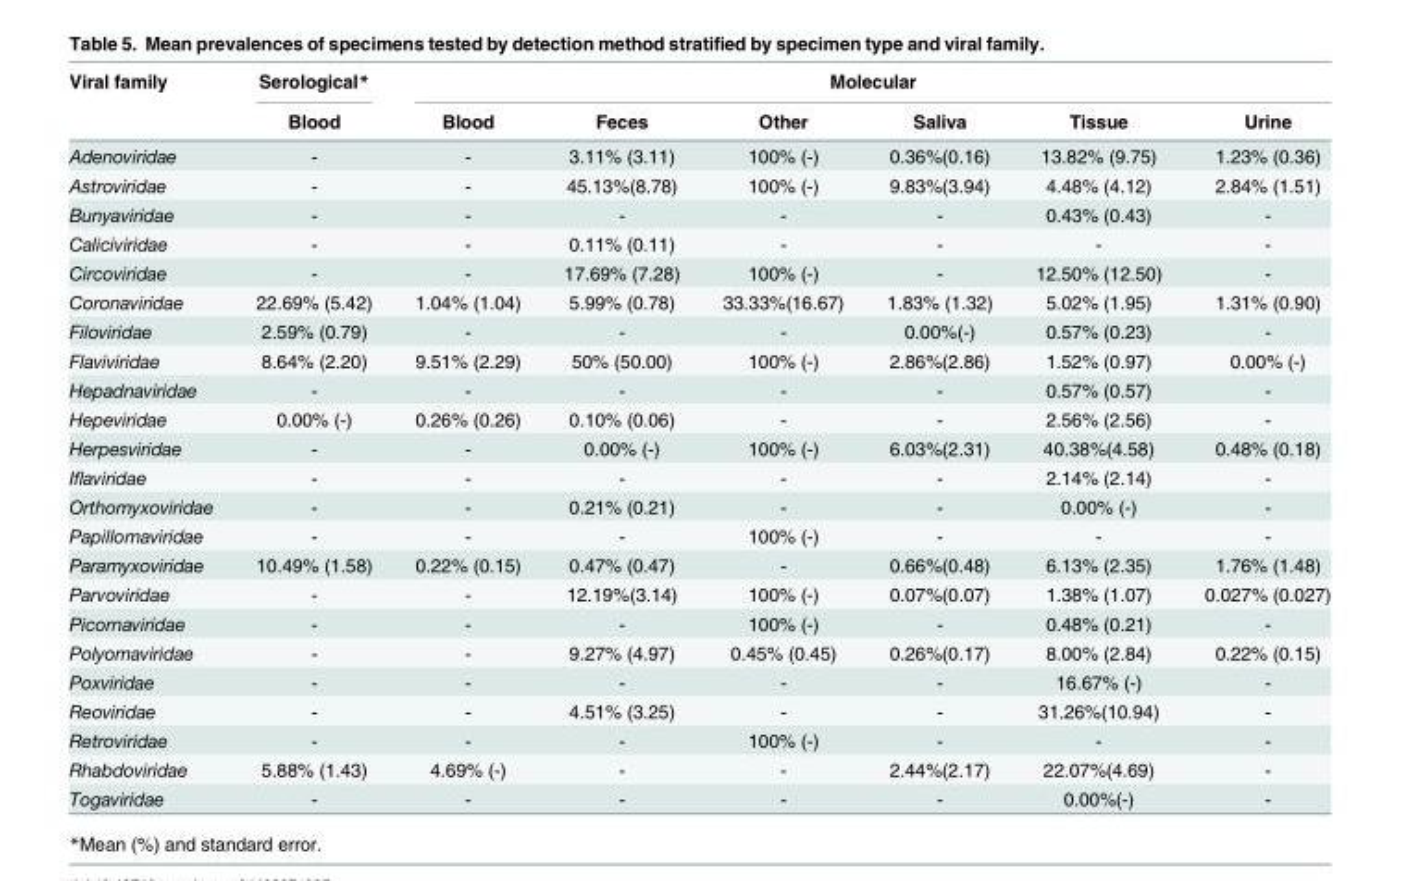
<table><thead><tr><td rowspan="2">Viral family</td><td rowspan="2">Serological* Blood</td><td colspan="6">Molecular</td></tr><tr><td>Blood</td><td>Feces</td><td>Other</td><td>Saliva</td><td>Tissue</td><td>Urine</td></tr></thead><tbody><tr><td>Adenoviridae</td><td>-</td><td>-</td><td>3.11% (3.11)</td><td>100% (-)</td><td>0.36%(0.16)</td><td>13.82% (9.75)</td><td>1.23% (0.36)</td></tr><tr><td>Astroviridae</td><td>-</td><td>-</td><td>45.13%(8.78)</td><td>100% (-)</td><td>9.83%(3.94)</td><td>4.48% (4.12)</td><td>2.84% (1.51)</td></tr><tr><td>Bunyaviridae</td><td>-</td><td>-</td><td>-</td><td>-</td><td>-</td><td>0.43% (0.43)</td><td>-</td></tr><tr><td>Caliciviridae</td><td>-</td><td>-</td><td>0.11% (0.11)</td><td>-</td><td>-</td><td>-</td><td>-</td></tr><tr><td>Circoviridae</td><td>-</td><td>-</td><td>17.69% (7.28)</td><td>100% (-)</td><td>-</td><td>12.50% (12.50)</td><td>-</td></tr><tr><td>Coronaviridae</td><td>22.69% (5.42)</td><td>1.04% (1.04)</td><td>5.99% (0.78)</td><td>33.33%(16.67)</td><td>1.83% (1.32)</td><td>5.02% (1.95)</td><td>1.31% (0.90)</td></tr><tr><td>Filoviridae</td><td>2.59% (0.79)</td><td>-</td><td>-</td><td>-</td><td>0.00%(-)</td><td>0.57% (0.23)</td><td>-</td></tr><tr><td>Flaviviridae</td><td>8.64% (2.20)</td><td>9.51% (2.29)</td><td>50% (50.00)</td><td>100% (-)</td><td>2.86%(2.86)</td><td>1.52% (0.97)</td><td>0.00% (-)</td></tr><tr><td>Hepadnaviridae</td><td>-</td><td>-</td><td>-</td><td>-</td><td>-</td><td>0.57% (0.57)</td><td>-</td></tr><tr><td>Hepeviridae</td><td>0.00% (-)</td><td>0.26% (0.26)</td><td>0.10% (0.06)</td><td>-</td><td>-</td><td>2.56% (2.56)</td><td>-</td></tr><tr><td>Herpesviridae</td><td>-</td><td>-</td><td>0.00% (-)</td><td>100% (-)</td><td>6.03%(2.31)</td><td>40.38%(4.58)</td><td>0.48% (0.18)</td></tr><tr><td>Iflaviridae</td><td>-</td><td>-</td><td>-</td><td>-</td><td>-</td><td>2.14% (2.14)</td><td>-</td></tr><tr><td>Orthomyxoviridae</td><td>-</td><td>-</td><td>0.21% (0.21)</td><td>-</td><td>-</td><td>0.00% (-)</td><td>-</td></tr><tr><td>Papillomaviridae</td><td>-</td><td>-</td><td>-</td><td>100% (-)</td><td>-</td><td>-</td><td>-</td></tr><tr><td>Paramyxoviridae</td><td>10.49% (1.58)</td><td>0.22% (0.15)</td><td>0.47% (0.47)</td><td>-</td><td>0.66%(0.48)</td><td>6.13% (2.35)</td><td>1.76% (1.48)</td></tr><tr><td>Parvoviridae</td><td>-</td><td>-</td><td>12.19%(3.14)</td><td>100% (-)</td><td>0.07%(0.07)</td><td>1.38% (1.07)</td><td>0.027% (0.027)</td></tr><tr><td>Picornaviridae</td><td>-</td><td>-</td><td>-</td><td>100% (-)</td><td>-</td><td>0.48% (0.21)</td><td>-</td></tr><tr><td>Polyomaviridae</td><td>-</td><td>-</td><td>9.27% (4.97)</td><td>0.45% (0.45)</td><td>0.26%(0.17)</td><td>8.00% (2.84)</td><td>0.22% (0.15)</td></tr><tr><td>Poxviridae</td><td>-</td><td>-</td><td>-</td><td>-</td><td>-</td><td>16.67% (-)</td><td>-</td></tr><tr><td>Reoviridae</td><td>-</td><td>-</td><td>4.51% (3.25)</td><td>-</td><td>-</td><td>31.26%(10.94)</td><td>-</td></tr><tr><td>Retroviridae</td><td>-</td><td>-</td><td>-</td><td>100% (-)</td><td>-</td><td>-</td><td>-</td></tr><tr><td>Rhabdoviridae</td><td>5.88% (1.43)</td><td>4.69% (-)</td><td>-</td><td>-</td><td>2.44%(2.17)</td><td>22.07%(4.69)</td><td>-</td></tr><tr><td>Togaviridae</td><td>-</td><td>-</td><td>-</td><td>-</td><td>-</td><td>0.00%(-)</td><td>-</td></tr></tbody></table>